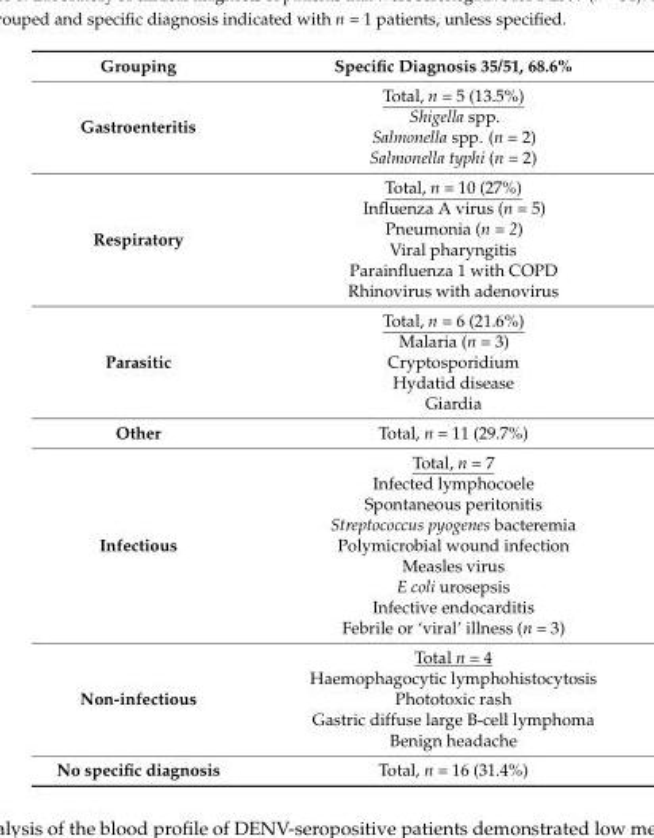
<table><thead><tr><td>Grouping</td><td>Specific Diagnosis 35/51, 68.6%</td></tr></thead><tbody><tr><td>Gastroenteritis</td><td>Total, n = 5 (13.5%) Shigella spp. Salmonella spp. (n = 2) Salmonella typhi (n = 2)</td></tr><tr><td>Respiratory</td><td>Total, n = 10 (27%) Influenza A virus (n = 5) Pneumonia (n = 2) Viral pharyngitis Parainfluenza 1 with COPD Rhinovirus with adenovirus</td></tr><tr><td>Parasitic</td><td>Total, n = 6 (21.6%) Malaria (n = 3) Cryptosporidium Hydatid disease Giardia</td></tr><tr><td>Other</td><td>Total, n = 11 (29.7%)</td></tr><tr><td>Infectious</td><td>Total, n = 7 Infected lymphocoele Spontaneous peritonitis Streptococcus pyogenes bacteremia Polymicrobial wound infection Measles virus E coli urosepsis Infective endocarditis Febrile or ‘viral’ illness (n = 3)</td></tr><tr><td>Non-infectious</td><td>Total n = 4 Haemophagocytic lymphohistocytosis Phototoxic rash Gastric diffuse large B-cell lymphoma Benign headache</td></tr><tr><td>No specific diagnosis</td><td>Total, n = 16 (31.4%)</td></tr></tbody></table>